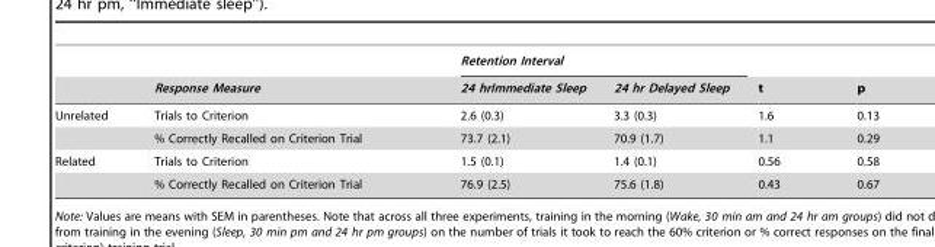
<table><thead><tr><td rowspan="2"></td><td rowspan="2">Response Measure</td><td colspan="2">Retention Interval</td><td rowspan="2">t</td><td rowspan="2">p</td></tr><tr><td>24 hrImmediate Sleep</td><td>24 hr Delayed Sleep</td></tr></thead><tbody><tr><td rowspan="2">Unrelated</td><td>Trials to Criterion</td><td>2.6 (0.3)</td><td>3.3 (0.3)</td><td>1.6</td><td>0.13</td></tr><tr><td>% Correctly Recalled on Criterion Trial</td><td>73.7 (2.1)</td><td>70.9 (1.7)</td><td>1.1</td><td>0.29</td></tr><tr><td rowspan="2">Related</td><td>Trials to Criterion</td><td>1.5 (0.1)</td><td>1.4 (0.1)</td><td>0.56</td><td>0.58</td></tr><tr><td>% Correctly Recalled on Criterion Trial</td><td>76.9 (2.5)</td><td>75.6 (1.8)</td><td>0.43</td><td>0.67</td></tr></tbody></table>